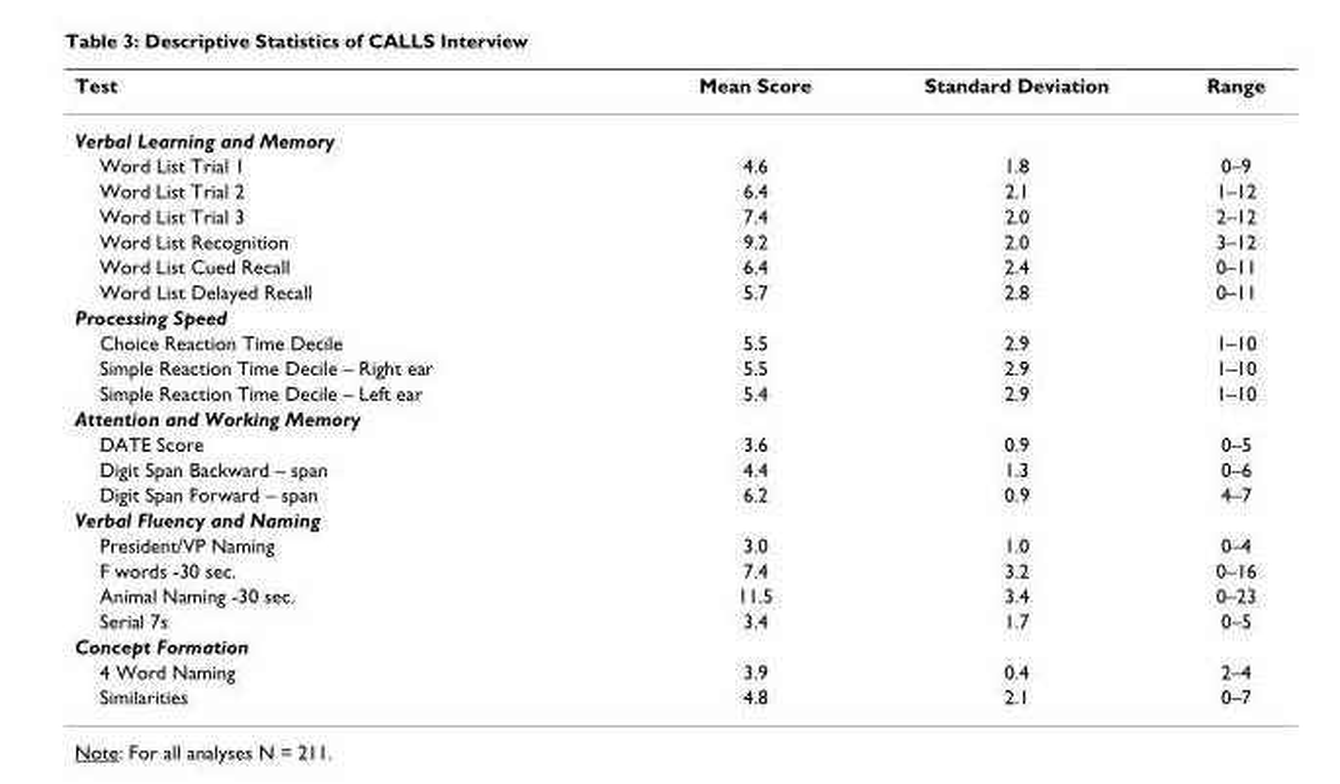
<table><thead><tr><td>Test</td><td>Mean Score</td><td>Standard Deviation</td><td>Range</td></tr></thead><tbody><tr><td colspan="4">Verbal Learning and Memory</td></tr><tr><td>Word List Trial 1</td><td>4.6</td><td>1.8</td><td>0–9</td></tr><tr><td>Word List Trial 2</td><td>6.4</td><td>2.1</td><td>1–12</td></tr><tr><td>Word List Trial 3</td><td>7.4</td><td>2.0</td><td>2–12</td></tr><tr><td>Word List Recognition</td><td>9.2</td><td>2.0</td><td>3–12</td></tr><tr><td>Word List Cued Recall</td><td>6.4</td><td>2.4</td><td>0–11</td></tr><tr><td>Word List Delayed Recall</td><td>5.7</td><td>2.8</td><td>0–11</td></tr><tr><td colspan="4">Processing Speed</td></tr><tr><td>Choice Reaction Time Decile</td><td>5.5</td><td>2.9</td><td>1–10</td></tr><tr><td>Simple Reaction Time Decile – Right ear</td><td>5.5</td><td>2.9</td><td>1–10</td></tr><tr><td>Simple Reaction Time Decile – Left ear</td><td>5.4</td><td>2.9</td><td>1–10</td></tr><tr><td colspan="4">Attention and Working Memory</td></tr><tr><td>DATE Score</td><td>3.6</td><td>0.9</td><td>0–5</td></tr><tr><td>Digit Span Backward – span</td><td>4.4</td><td>1.3</td><td>0–6</td></tr><tr><td>Digit Span Forward – span</td><td>6.2</td><td>0.9</td><td>4–7</td></tr><tr><td colspan="4">Verbal Fluency and Naming</td></tr><tr><td>President/VP Naming</td><td>3.0</td><td>1.0</td><td>0–4</td></tr><tr><td>F words -30 sec.</td><td>7.4</td><td>3.2</td><td>0–16</td></tr><tr><td>Animal Naming -30 sec.</td><td>11.5</td><td>3.4</td><td>0–23</td></tr><tr><td>Serial 7s</td><td>3.4</td><td>1.7</td><td>0–5</td></tr><tr><td colspan="4">Concept Formation</td></tr><tr><td>4 Word Naming</td><td>3.9</td><td>0.4</td><td>2–4</td></tr><tr><td>Similarities</td><td>4.8</td><td>2.1</td><td>0–7</td></tr></tbody></table>